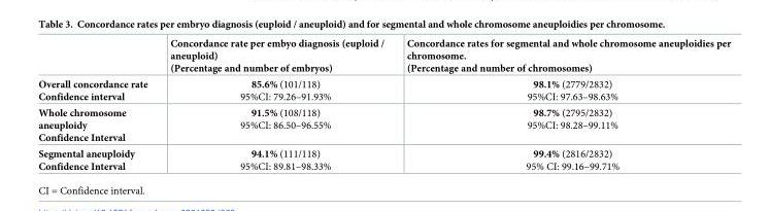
<table><thead><tr><td></td><td>Concordance rate per embyo diagnosis (euploid / aneuploid) (Percentage and number of embryos)</td><td>Concordance rates for segmental and whole chromosome aneuploidies per chromosome. (Percentage and number of chromosomes)</td></tr></thead><tbody><tr><td>Overall concordance rate Confidence interval</td><td>85.6% (101/118) 95%CI: 79.26–91.93%</td><td>98.1% (2779/2832) 95%CI: 97.63–98.63%</td></tr><tr><td>Whole chromosome aneuploidy Confidence Interval</td><td>91.5% (108/118) 95%CI: 86.50–96.55%</td><td>98.7% (2795/2832) 95%CI: 98.28–99.11%</td></tr><tr><td>Segmental aneuploidy Confidence Interval</td><td>94.1% (111/118) 95%CI: 89.81–98.33%</td><td>99.4% (2816/2832) 95% CI: 99.16–99.71%</td></tr></tbody></table>